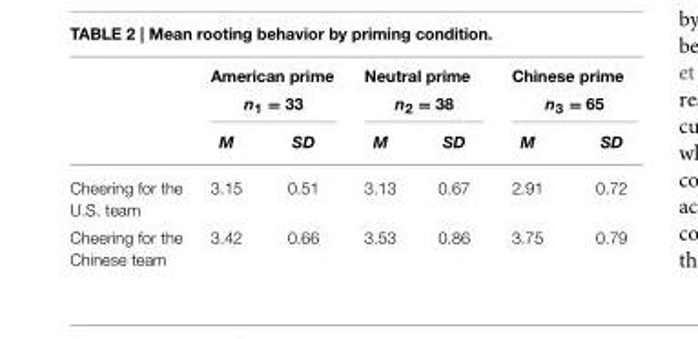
<table><thead><tr><td rowspan="2"></td><td colspan="2">American prime n<sub>1</sub> = 33</td><td colspan="2">Neutral prime n<sub>2</sub> = 38</td><td colspan="2">Chinese prime n<sub>3</sub> = 65</td></tr><tr><td>M</td><td>SD</td><td>M</td><td>SD</td><td>M</td><td>SD</td></tr></thead><tbody><tr><td>Cheering for the U.S. team</td><td>3.15</td><td>0.51</td><td>3.13</td><td>0.67</td><td>2.91</td><td>0.72</td></tr><tr><td>Cheering for the Chinese team</td><td>3.42</td><td>0.66</td><td>3.53</td><td>0.86</td><td>3.75</td><td>0.79</td></tr></tbody></table>